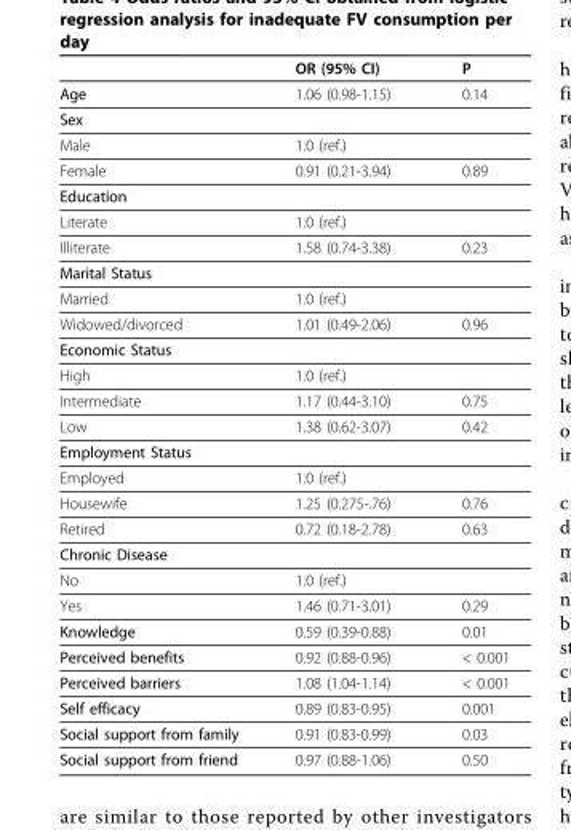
<table><thead><tr><td></td><td>OR (95% CI)</td><td>P</td></tr></thead><tbody><tr><td>Age</td><td>1.06 (0.98-1.15)</td><td>0.14</td></tr><tr><td colspan="3">Sex</td></tr><tr><td>Male</td><td>1.0 (ref.)</td><td></td></tr><tr><td>Female</td><td>0.91 (0.21-3.94)</td><td>0.89</td></tr><tr><td colspan="3">Education</td></tr><tr><td>Literate</td><td>1.0 (ref.)</td><td></td></tr><tr><td>Illiterate</td><td>1.58 (0.74-3.38)</td><td>0.23</td></tr><tr><td colspan="3">Marital Status</td></tr><tr><td>Married</td><td>1.0 (ref.)</td><td></td></tr><tr><td>Widowed/divorced</td><td>1.01 (0.49-2.06)</td><td>0.96</td></tr><tr><td colspan="3">Economic Status</td></tr><tr><td>High</td><td>1.0 (ref.)</td><td></td></tr><tr><td>Intermediate</td><td>1.17 (0.44-3.10)</td><td>0.75</td></tr><tr><td>Low</td><td>1.38 (0.62-3.07)</td><td>0.42</td></tr><tr><td colspan="3">Employment Status</td></tr><tr><td>Employed</td><td>1.0 (ref.)</td><td></td></tr><tr><td>Housewife</td><td>1.25 (0.275-.76)</td><td>0.76</td></tr><tr><td>Retired</td><td>0.72 (0.18-2.78)</td><td>0.63</td></tr><tr><td colspan="3">Chronic Disease</td></tr><tr><td>No</td><td>1.0 (ref.)</td><td></td></tr><tr><td>Yes</td><td>1.46 (0.71-3.01)</td><td>0.29</td></tr><tr><td>Knowledge</td><td>0.59 (0.39-0.88)</td><td>0.01</td></tr><tr><td>Perceived benefits</td><td>0.92 (0.88-0.96)</td><td>&lt; 0.001</td></tr><tr><td>Perceived barriers</td><td>1.08 (1.04-1.14)</td><td>&lt; 0.001</td></tr><tr><td>Self efficacy</td><td>0.89 (0.83-0.95)</td><td>0.001</td></tr><tr><td>Social support from family</td><td>0.91 (0.83-0.99)</td><td>0.03</td></tr><tr><td>Social support from friend</td><td>0.97 (0.88-1.06)</td><td>0.50</td></tr></tbody></table>